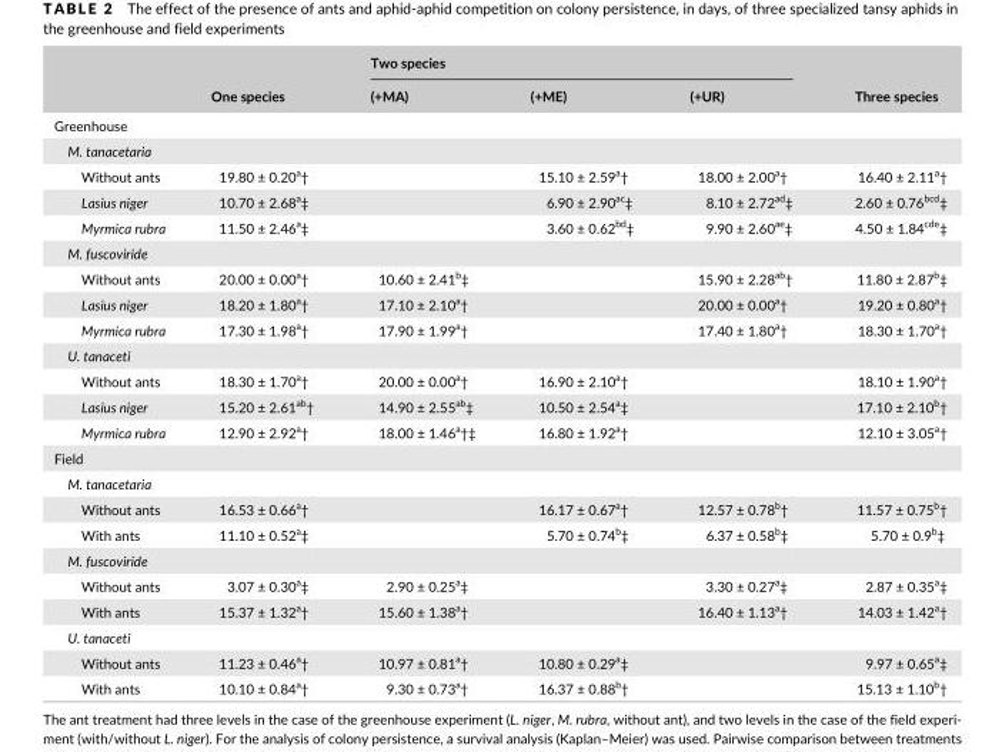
<table><thead><tr><td rowspan="2"></td><td rowspan="2">One species</td><td colspan="3">Two species</td><td rowspan="2">Three species</td></tr><tr><td>(+MA)</td><td>(+ME)</td><td>(+UR)</td></tr></thead><tbody><tr><td colspan="6">Greenhouse</td></tr><tr><td colspan="6">M. tanacetaria</td></tr><tr><td>Without ants</td><td>19.80 ± 0.20<sup>a</sup>†</td><td></td><td>15.10 ± 2.59<sup>a</sup>†</td><td>18.00 ± 2.00<sup>a</sup>†</td><td>16.40 ± 2.11<sup>a</sup>†</td></tr><tr><td>Lasius niger</td><td>10.70 ± 2.68<sup>a</sup>‡</td><td></td><td>6.90 ± 2.90<sup>ac</sup>‡</td><td>8.10 ± 2.72<sup>ad</sup>‡</td><td>2.60 ± 0.76<sup>bcd</sup>‡</td></tr><tr><td>Myrmica rubra</td><td>11.50 ± 2.46<sup>a</sup>‡</td><td></td><td>3.60 ± 0.62<sup>bd</sup>‡</td><td>9.90 ± 2.60<sup>ae</sup>‡</td><td>4.50 ± 1.84<sup>cde</sup>‡</td></tr><tr><td colspan="6">M. fuscoviride</td></tr><tr><td>Without ants</td><td>20.00 ± 0.00<sup>a</sup>†</td><td>10.60 ± 2.41<sup>b</sup>‡</td><td></td><td>15.90 ± 2.28<sup>ab</sup>†</td><td>11.80 ± 2.87<sup>b</sup>‡</td></tr><tr><td>Lasius niger</td><td>18.20 ± 1.80<sup>a</sup>†</td><td>17.10 ± 2.10<sup>a</sup>†</td><td></td><td>20.00 ± 0.00<sup>a</sup>†</td><td>19.20 ± 0.80<sup>a</sup>†</td></tr><tr><td>Myrmica rubra</td><td>17.30 ± 1.98<sup>a</sup>†</td><td>17.90 ± 1.99<sup>a</sup>†</td><td></td><td>17.40 ± 1.80<sup>a</sup>†</td><td>18.30 ± 1.70<sup>a</sup>†</td></tr><tr><td colspan="6">U. tanaceti</td></tr><tr><td>Without ants</td><td>18.30 ± 1.70<sup>a</sup>†</td><td>20.00 ± 0.00<sup>a</sup>†</td><td>16.90 ± 2.10<sup>a</sup>†</td><td></td><td>18.10 ± 1.90<sup>a</sup>†</td></tr><tr><td>Lasius niger</td><td>15.20 ± 2.61<sup>ab</sup>†</td><td>14.90 ± 2.55<sup>ab</sup>‡</td><td>10.50 ± 2.54<sup>a</sup>‡</td><td></td><td>17.10 ± 2.10<sup>b</sup>†</td></tr><tr><td>Myrmica rubra</td><td>12.90 ± 2.92<sup>a</sup>†</td><td>18.00 ± 1.46<sup>a</sup>†‡</td><td>16.80 ± 1.92<sup>a</sup>†</td><td></td><td>12.10 ± 3.05<sup>a</sup>†</td></tr><tr><td colspan="6">Field</td></tr><tr><td colspan="6">M. tanacetaria</td></tr><tr><td>Without ants</td><td>16.53 ± 0.66<sup>a</sup>†</td><td></td><td>16.17 ± 0.67<sup>a</sup>†</td><td>12.57 ± 0.78<sup>b</sup>†</td><td>11.57 ± 0.75<sup>b</sup>†</td></tr><tr><td>With ants</td><td>11.10 ± 0.52<sup>a</sup>‡</td><td></td><td>5.70 ± 0.74<sup>b</sup>‡</td><td>6.37 ± 0.58<sup>b</sup>‡</td><td>5.70 ± 0.9<sup>b</sup>‡</td></tr><tr><td colspan="6">M. fuscoviride</td></tr><tr><td>Without ants</td><td>3.07 ± 0.30<sup>a</sup>‡</td><td>2.90 ± 0.25<sup>a</sup>‡</td><td></td><td>3.30 ± 0.27<sup>a</sup>‡</td><td>2.87 ± 0.35<sup>a</sup>‡</td></tr><tr><td>With ants</td><td>15.37 ± 1.32<sup>a</sup>†</td><td>15.60 ± 1.38<sup>a</sup>†</td><td></td><td>16.40 ± 1.13<sup>a</sup>†</td><td>14.03 ± 1.42<sup>a</sup>†</td></tr><tr><td colspan="6">U. tanaceti</td></tr><tr><td>Without ants</td><td>11.23 ± 0.46<sup>a</sup>†</td><td>10.97 ± 0.81<sup>a</sup>†</td><td>10.80 ± 0.29<sup>a</sup>‡</td><td></td><td>9.97 ± 0.65<sup>a</sup>‡</td></tr><tr><td>With ants</td><td>10.10 ± 0.84<sup>a</sup>†</td><td>9.30 ± 0.73<sup>a</sup>†</td><td>16.37 ± 0.88<sup>b</sup>†</td><td></td><td>15.13 ± 1.10<sup>b</sup>†</td></tr></tbody></table>